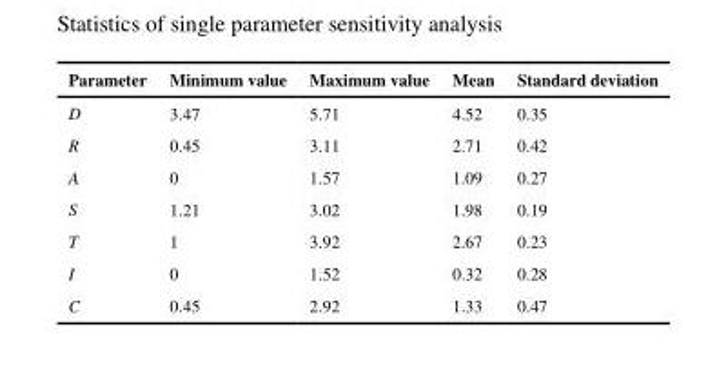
<table><thead><tr><td>Parameter</td><td>Minimum value</td><td>Maximum value</td><td>Mean</td><td>Standard deviation</td></tr></thead><tbody><tr><td>D</td><td>3.47</td><td>5.71</td><td>4.52</td><td>0.35</td></tr><tr><td>R</td><td>0.45</td><td>3.11</td><td>2.71</td><td>0.42</td></tr><tr><td>A</td><td>0</td><td>1.57</td><td>1.09</td><td>0.27</td></tr><tr><td>S</td><td>1.21</td><td>3.02</td><td>1.98</td><td>0.19</td></tr><tr><td>T</td><td>1</td><td>3.92</td><td>2.67</td><td>0.23</td></tr><tr><td>I</td><td>0</td><td>1.52</td><td>0.32</td><td>0.28</td></tr><tr><td>C</td><td>0.45</td><td>2.92</td><td>1.33</td><td>0.47</td></tr></tbody></table>